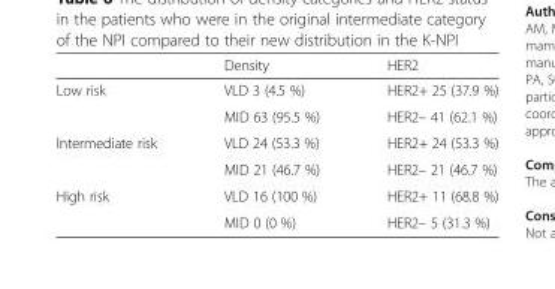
<table><thead><tr><td></td><td>Density</td><td>HER2</td></tr></thead><tbody><tr><td rowspan="2">Low risk</td><td>VLD 3 (4.5 %)</td><td>HER2+ 25 (37.9 %)</td></tr><tr><td>MID 63 (95.5 %)</td><td>HER2– 41 (62.1 %)</td></tr><tr><td rowspan="2">Intermediate risk</td><td>VLD 24 (53.3 %)</td><td>HER2+ 24 (53.3 %)</td></tr><tr><td>MID 21 (46.7 %)</td><td>HER2– 21 (46.7 %)</td></tr><tr><td rowspan="2">High risk</td><td>VLD 16 (100 %)</td><td>HER2+ 11 (68.8 %)</td></tr><tr><td>MID 0 (0 %)</td><td>HER2– 5 (31.3 %)</td></tr></tbody></table>